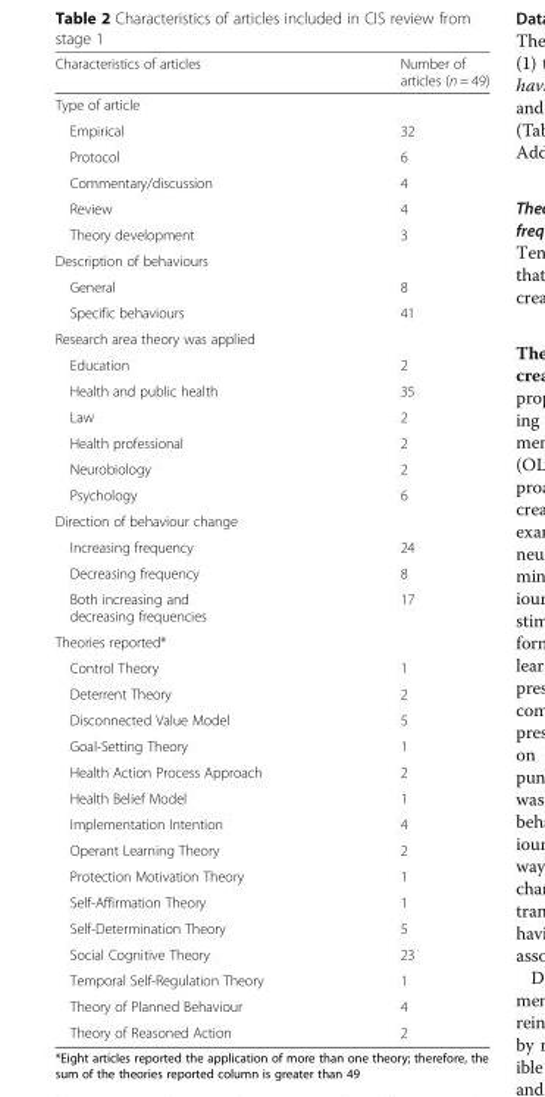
<table><thead><tr><td>Characteristics of articles</td><td>Number of articles (n = 49)</td></tr></thead><tbody><tr><td colspan="2">Type of article</td></tr><tr><td>Empirical</td><td>32</td></tr><tr><td>Protocol</td><td>6</td></tr><tr><td>Commentary/discussion</td><td>4</td></tr><tr><td>Review</td><td>4</td></tr><tr><td>Theory development</td><td>3</td></tr><tr><td colspan="2">Description of behaviours</td></tr><tr><td>General</td><td>8</td></tr><tr><td>Specific behaviours</td><td>41</td></tr><tr><td colspan="2">Research area theory was applied</td></tr><tr><td>Education</td><td>2</td></tr><tr><td>Health and public health</td><td>35</td></tr><tr><td>Law</td><td>2</td></tr><tr><td>Health professional</td><td>2</td></tr><tr><td>Neurobiology</td><td>2</td></tr><tr><td>Psychology</td><td>6</td></tr><tr><td colspan="2">Direction of behaviour change</td></tr><tr><td>Increasing frequency</td><td>24</td></tr><tr><td>Decreasing frequency</td><td>8</td></tr><tr><td>Both increasing and decreasing frequencies</td><td>17</td></tr><tr><td colspan="2">Theories reported*</td></tr><tr><td>Control Theory</td><td>1</td></tr><tr><td>Deterrent Theory</td><td>2</td></tr><tr><td>Disconnected Value Model</td><td>5</td></tr><tr><td>Goal-Setting Theory</td><td>1</td></tr><tr><td>Health Action Process Approach</td><td>2</td></tr><tr><td>Health Belief Model</td><td>1</td></tr><tr><td>Implementation Intention</td><td>4</td></tr><tr><td>Operant Learning Theory</td><td>2</td></tr><tr><td>Protection Motivation Theory</td><td>1</td></tr><tr><td>Self-Affirmation Theory</td><td>1</td></tr><tr><td>Self-Determination Theory</td><td>5</td></tr><tr><td>Social Cognitive Theory</td><td>23</td></tr><tr><td>Temporal Self-Regulation Theory</td><td>1</td></tr><tr><td>Theory of Planned Behaviour</td><td>4</td></tr><tr><td>Theory of Reasoned Action</td><td>2</td></tr></tbody></table>